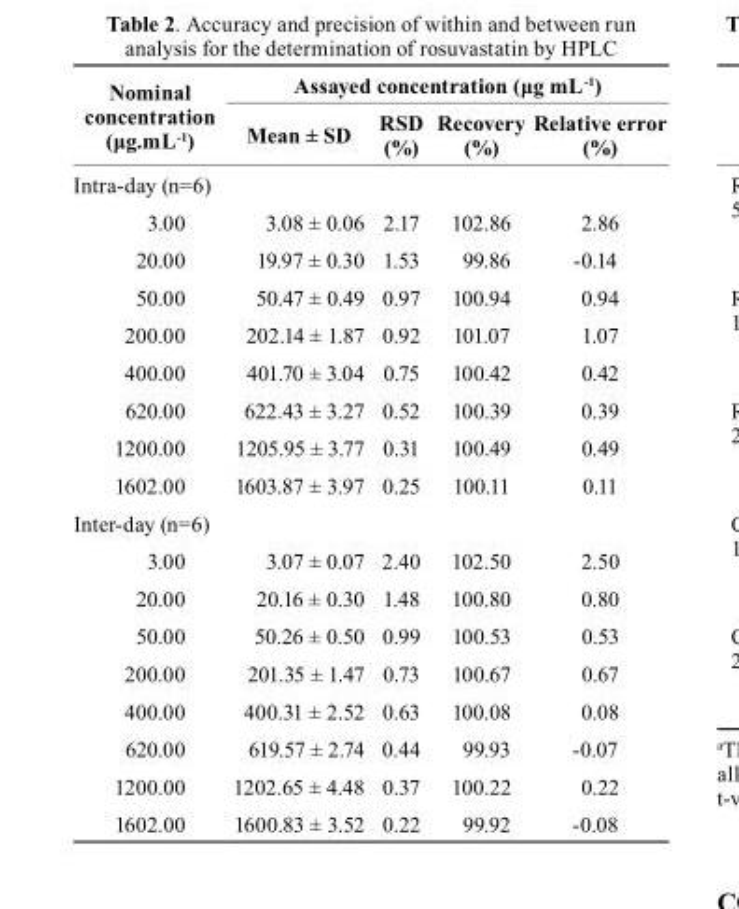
<table><thead><tr><td rowspan="2">Nominal concentration (μg.mL<sup>-1</sup>)</td><td colspan="4">Assayed concentration (μg mL<sup>-1</sup>)</td></tr><tr><td>Mean ± sD</td><td>rsD (%)</td><td>recovery (%)</td><td>relative error (%)</td></tr></thead><tbody><tr><td colspan="5">Intra-day (n=6)</td></tr><tr><td>3.00</td><td>3.08 ± 0.06</td><td>2.17</td><td>102.86</td><td>2.86</td></tr><tr><td>20.00</td><td>19.97 ± 0.30</td><td>1.53</td><td>99.86</td><td>-0.14</td></tr><tr><td>50.00</td><td>50.47 ± 0.49</td><td>0.97</td><td>100.94</td><td>0.94</td></tr><tr><td>200.00</td><td>202.14 ± 1.87</td><td>0.92</td><td>101.07</td><td>1.07</td></tr><tr><td>400.00</td><td>401.70 ± 3.04</td><td>0.75</td><td>100.42</td><td>0.42</td></tr><tr><td>620.00</td><td>622.43 ± 3.27</td><td>0.52</td><td>100.39</td><td>0.39</td></tr><tr><td>1200.00</td><td>1205.95 ± 3.77</td><td>0.31</td><td>100.49</td><td>0.49</td></tr><tr><td>1602.00</td><td>1603.87 ± 3.97</td><td>0.25</td><td>100.11</td><td>0.11</td></tr><tr><td colspan="5">Inter-day (n=6)</td></tr><tr><td>3.00</td><td>3.07 ± 0.07</td><td>2.40</td><td>102.50</td><td>2.50</td></tr><tr><td>20.00</td><td>20.16 ± 0.30</td><td>1.48</td><td>100.80</td><td>0.80</td></tr><tr><td>50.00</td><td>50.26 ± 0.50</td><td>0.99</td><td>100.53</td><td>0.53</td></tr><tr><td>200.00</td><td>201.35 ± 1.47</td><td>0.73</td><td>100.67</td><td>0.67</td></tr><tr><td>400.00</td><td>400.31 ± 2.52</td><td>0.63</td><td>100.08</td><td>0.08</td></tr><tr><td>620.00</td><td>619.57 ± 2.74</td><td>0.44</td><td>99.93</td><td>-0.07</td></tr><tr><td>1200.00</td><td>1202.65 ± 4.48</td><td>0.37</td><td>100.22</td><td>0.22</td></tr><tr><td>1602.00</td><td>1600.83 ± 3.52</td><td>0.22</td><td>99.92</td><td>-0.08</td></tr></tbody></table>